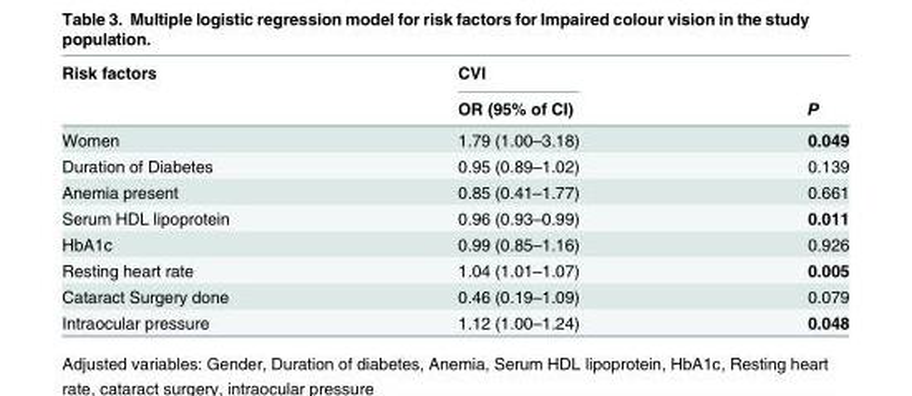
<table><thead><tr><td rowspan="2">Risk factors</td><td rowspan="2">CVI OR (95% of CI)</td><td rowspan="2">P</td></tr><tr></tr></thead><tbody><tr><td>Women</td><td>1.79 (1.00–3.18)</td><td>0.049</td></tr><tr><td>Duration of Diabetes</td><td>0.95 (0.89–1.02)</td><td>0.139</td></tr><tr><td>Anemia present</td><td>0.85 (0.41–1.77)</td><td>0.661</td></tr><tr><td>Serum HDL lipoprotein</td><td>0.96 (0.93–0.99)</td><td>0.011</td></tr><tr><td>HbA1c</td><td>0.99 (0.85–1.16)</td><td>0.926</td></tr><tr><td>Resting heart rate</td><td>1.04 (1.01–1.07)</td><td>0.005</td></tr><tr><td>Cataract Surgery done</td><td>0.46 (0.19–1.09)</td><td>0.079</td></tr><tr><td>Intraocular pressure</td><td>1.12 (1.00–1.24)</td><td>0.048</td></tr></tbody></table>